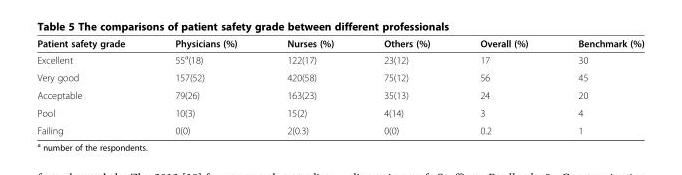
<table><thead><tr><td>Patient safety grade</td><td>Physicians (%)</td><td>Nurses (%)</td><td>Others (%)</td><td>Overall (%)</td><td>Benchmark (%)</td></tr></thead><tbody><tr><td>Excellent</td><td>55<sup>a</sup>(18)</td><td>122(17)</td><td>23(12)</td><td>17</td><td>30</td></tr><tr><td>Very good</td><td>157(52)</td><td>420(58)</td><td>75(12)</td><td>56</td><td>45</td></tr><tr><td>Acceptable</td><td>79(26)</td><td>163(23)</td><td>35(13)</td><td>24</td><td>20</td></tr><tr><td>Pool</td><td>10(3)</td><td>15(2)</td><td>4(14)</td><td>3</td><td>4</td></tr><tr><td>Failing</td><td>0(0)</td><td>2(0.3)</td><td>0(0)</td><td>0.2</td><td>1</td></tr></tbody></table>